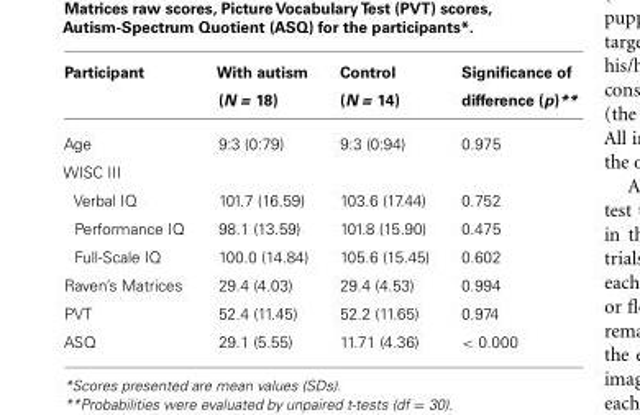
<table><thead><tr><td>Participant</td><td>With autism (N = 18)</td><td>Control (N = 14)</td><td>Significance of difference (p)**</td></tr></thead><tbody><tr><td>Age</td><td>9:3 (0:79)</td><td>9:3 (0:94)</td><td>0.975</td></tr><tr><td colspan="4">WISC III</td></tr><tr><td>Verbal IQ</td><td>101.7 (16.59)</td><td>103.6 (17.44)</td><td>0.752</td></tr><tr><td>Performance IQ</td><td>98.1 (13.59)</td><td>101.8 (15.90)</td><td>0.475</td></tr><tr><td>Full-Scale IQ</td><td>100.0 (14.84)</td><td>105.6 (15.45)</td><td>0.602</td></tr><tr><td>Raven’s Matrices</td><td>29.4 (4.03)</td><td>29.4 (4.53)</td><td>0.994</td></tr><tr><td>PVT</td><td>52.4 (11.45)</td><td>52.2 (11.65)</td><td>0.974</td></tr><tr><td>ASQ</td><td>29.1 (5.55)</td><td>11.71 (4.36)</td><td>&lt; 0.000</td></tr></tbody></table>